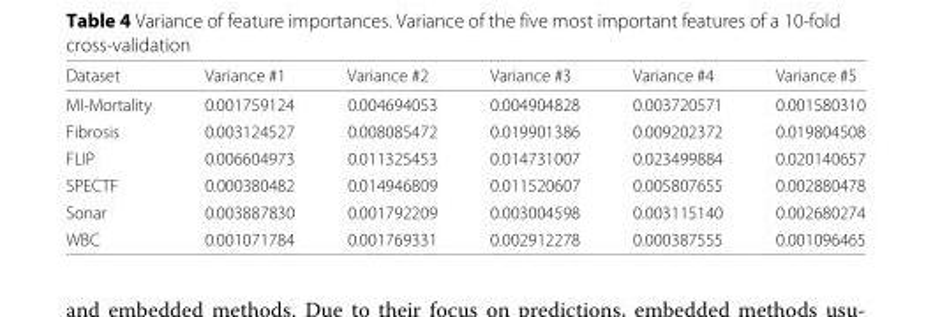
<table><thead><tr><td>Dataset</td><td>Variance #1</td><td>Variance #2</td><td>Variance #3</td><td>Variance #4</td><td>Variance #5</td></tr></thead><tbody><tr><td>MI-Mortality</td><td>0.001759124</td><td>0.004694053</td><td>0.004904828</td><td>0.003720571</td><td>0.001580310</td></tr><tr><td>Fibrosis</td><td>0.003124527</td><td>0.008085472</td><td>0.019901386</td><td>0.009202372</td><td>0.019804508</td></tr><tr><td>FLIP</td><td>0.006604973</td><td>0.011325453</td><td>0.014731007</td><td>0.023499884</td><td>0.020140657</td></tr><tr><td>SPECTF</td><td>0.000380482</td><td>0.014946809</td><td>0.011520607</td><td>0.005807655</td><td>0.002880478</td></tr><tr><td>Sonar</td><td>0.003887830</td><td>0.001792209</td><td>0.003004598</td><td>0.003115140</td><td>0.002680274</td></tr><tr><td>WBC</td><td>0.001071784</td><td>0.001769331</td><td>0.002912278</td><td>0.000387555</td><td>0.001096465</td></tr></tbody></table>